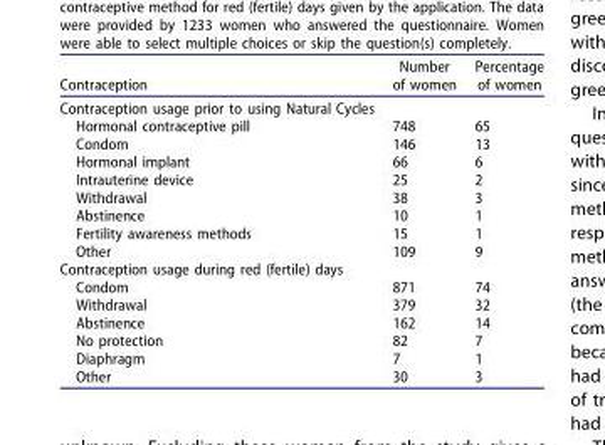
<table><thead><tr><td>Contraception</td><td>Number of women</td><td>Percentage of women</td></tr></thead><tbody><tr><td colspan="3">Contraception usage prior to using Natural Cycles</td></tr><tr><td>Hormonal contraceptive pill</td><td>748</td><td>65</td></tr><tr><td>Condom</td><td>146</td><td>13</td></tr><tr><td>Hormonal implant</td><td>66</td><td>6</td></tr><tr><td>Intrauterine device</td><td>25</td><td>2</td></tr><tr><td>Withdrawal</td><td>38</td><td>3</td></tr><tr><td>Abstinence</td><td>10</td><td>1</td></tr><tr><td>Fertility awareness methods</td><td>15</td><td>1</td></tr><tr><td>Other</td><td>109</td><td>9</td></tr><tr><td colspan="3">Contraception usage during red (fertile) days</td></tr><tr><td>Condom</td><td>871</td><td>74</td></tr><tr><td>Withdrawal</td><td>379</td><td>32</td></tr><tr><td>Abstinence</td><td>162</td><td>14</td></tr><tr><td>No protection</td><td>82</td><td>7</td></tr><tr><td>Diaphragm</td><td>7</td><td>1</td></tr><tr><td>Other</td><td>30</td><td>3</td></tr></tbody></table>